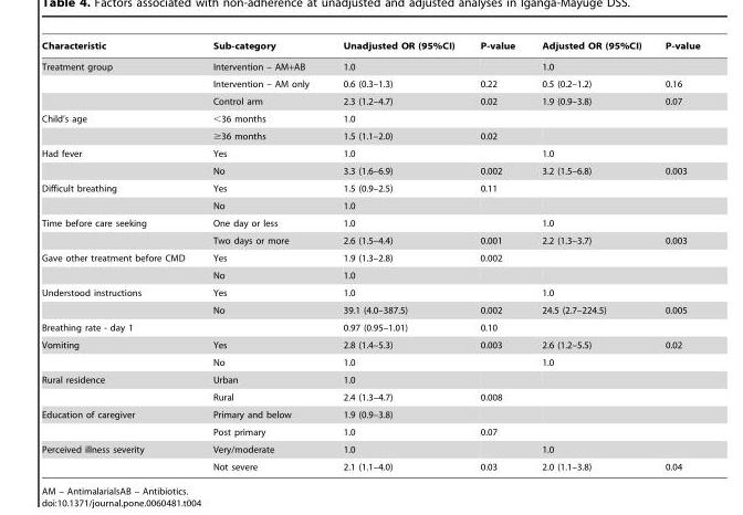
<table><thead><tr><td>Characteristic</td><td>Sub-category</td><td>Unadjusted OR (95%CI)</td><td>P-value</td><td>Adjusted OR (95%CI)</td><td>P-value</td></tr></thead><tbody><tr><td rowspan="3">Treatment group</td><td>Intervention – AM+AB</td><td>1.0</td><td></td><td>1.0</td><td></td></tr><tr><td>Intervention – AM only</td><td>0.6 (0.3–1.3)</td><td>0.22</td><td>0.5 (0.2–1.2)</td><td>0.16</td></tr><tr><td>Control arm</td><td>2.3 (1.2–4.7)</td><td>0.02</td><td>1.9 (0.9–3.8)</td><td>0.07</td></tr><tr><td rowspan="2">Child’s age</td><td>&lt;36 months</td><td>1.0</td><td></td><td></td><td></td></tr><tr><td>≥36 months</td><td>1.5 (1.1–2.0)</td><td>0.02</td><td></td><td></td></tr><tr><td rowspan="2">Had fever</td><td>Yes</td><td>1.0</td><td></td><td>1.0</td><td></td></tr><tr><td>No</td><td>3.3 (1.6–6.9)</td><td>0.002</td><td>3.2 (1.5–6.8)</td><td>0.003</td></tr><tr><td rowspan="2">Difficult breathing</td><td>Yes</td><td>1.5 (0.9–2.5)</td><td>0.11</td><td></td><td></td></tr><tr><td>No</td><td>1.0</td><td></td><td></td><td></td></tr><tr><td rowspan="2">Time before care seeking</td><td>One day or less</td><td>1.0</td><td></td><td>1.0</td><td></td></tr><tr><td>Two days or more</td><td>2.6 (1.5–4.4)</td><td>0.001</td><td>2.2 (1.3–3.7)</td><td>0.003</td></tr><tr><td rowspan="2">Gave other treatment before CMD</td><td>Yes</td><td>1.9 (1.3–2.8)</td><td>0.002</td><td></td><td></td></tr><tr><td>No</td><td>1.0</td><td></td><td></td><td></td></tr><tr><td rowspan="2">Understood instructions</td><td>Yes</td><td>1.0</td><td></td><td>1.0</td><td></td></tr><tr><td>No</td><td>39.1 (4.0–387.5)</td><td>0.002</td><td>24.5 (2.7–224.5)</td><td>0.005</td></tr><tr><td>Breathing rate - day 1</td><td></td><td>0.97 (0.95–1.01)</td><td>0.10</td><td></td><td></td></tr><tr><td rowspan="2">Vomiting</td><td>Yes</td><td>2.8 (1.4–5.3)</td><td>0.003</td><td>2.6 (1.2–5.5)</td><td>0.02</td></tr><tr><td>No</td><td>1.0</td><td></td><td>1.0</td><td></td></tr><tr><td rowspan="2">Rural residence</td><td>Urban</td><td>1.0</td><td></td><td></td><td></td></tr><tr><td>Rural</td><td>2.4 (1.3–4.7)</td><td>0.008</td><td></td><td></td></tr><tr><td rowspan="2">Education of caregiver</td><td>Primary and below</td><td>1.9 (0.9–3.8)</td><td></td><td></td><td></td></tr><tr><td>Post primary</td><td>1.0</td><td>0.07</td><td></td><td></td></tr><tr><td rowspan="2">Perceived illness severity</td><td>Very/moderate</td><td>1.0</td><td></td><td>1.0</td><td></td></tr><tr><td>Not severe</td><td>2.1 (1.1–4.0)</td><td>0.03</td><td>2.0 (1.1–3.8)</td><td>0.04</td></tr></tbody></table>